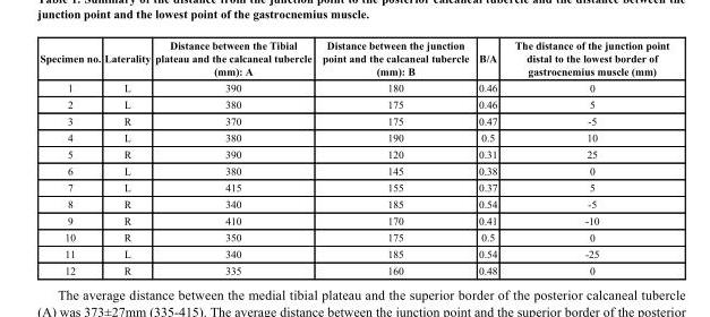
<table><thead><tr><td>Specimen no.</td><td>Laterality</td><td>Distance between the Tibial plateau and the calcaneal tubercle (mm): A</td><td>Distance between the junction point and the calcaneal tubercle (mm): B</td><td>B/A</td><td>The distance of the junction point distal to the lowest border of gastrocnemius muscle (mm)</td></tr></thead><tbody><tr><td>1</td><td>L</td><td>390</td><td>180</td><td>0.46</td><td>0</td></tr><tr><td>2</td><td>L</td><td>380</td><td>175</td><td>0.46</td><td>5</td></tr><tr><td>3</td><td>R</td><td>370</td><td>175</td><td>0.47</td><td>-5</td></tr><tr><td>4</td><td>L</td><td>380</td><td>190</td><td>0.5</td><td>10</td></tr><tr><td>5</td><td>R</td><td>390</td><td>120</td><td>0.31</td><td>25</td></tr><tr><td>6</td><td>L</td><td>380</td><td>145</td><td>0.38</td><td>0</td></tr><tr><td>7</td><td>L</td><td>415</td><td>155</td><td>0.37</td><td>5</td></tr><tr><td>8</td><td>R</td><td>340</td><td>185</td><td>0.54</td><td>-5</td></tr><tr><td>9</td><td>R</td><td>410</td><td>170</td><td>0.41</td><td>-10</td></tr><tr><td>10</td><td>R</td><td>350</td><td>175</td><td>0.5</td><td>0</td></tr><tr><td>11</td><td>L</td><td>340</td><td>185</td><td>0.54</td><td>-25</td></tr><tr><td>12</td><td>R</td><td>335</td><td>160</td><td>0.48</td><td>0</td></tr></tbody></table>